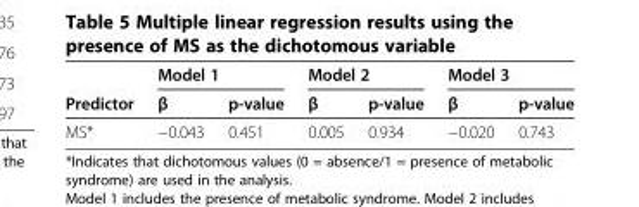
<table><thead><tr><td rowspan="2">Predictor</td><td colspan="2">Model 1</td><td colspan="2">Model 2</td><td colspan="2">Model 3</td></tr><tr><td>β</td><td>p-value</td><td>β</td><td>p-value</td><td>β</td><td>p-value</td></tr></thead><tbody><tr><td>MS*</td><td>−0.043</td><td>0.451</td><td>0.005</td><td>0.934</td><td>−0.020</td><td>0.743</td></tr></tbody></table>